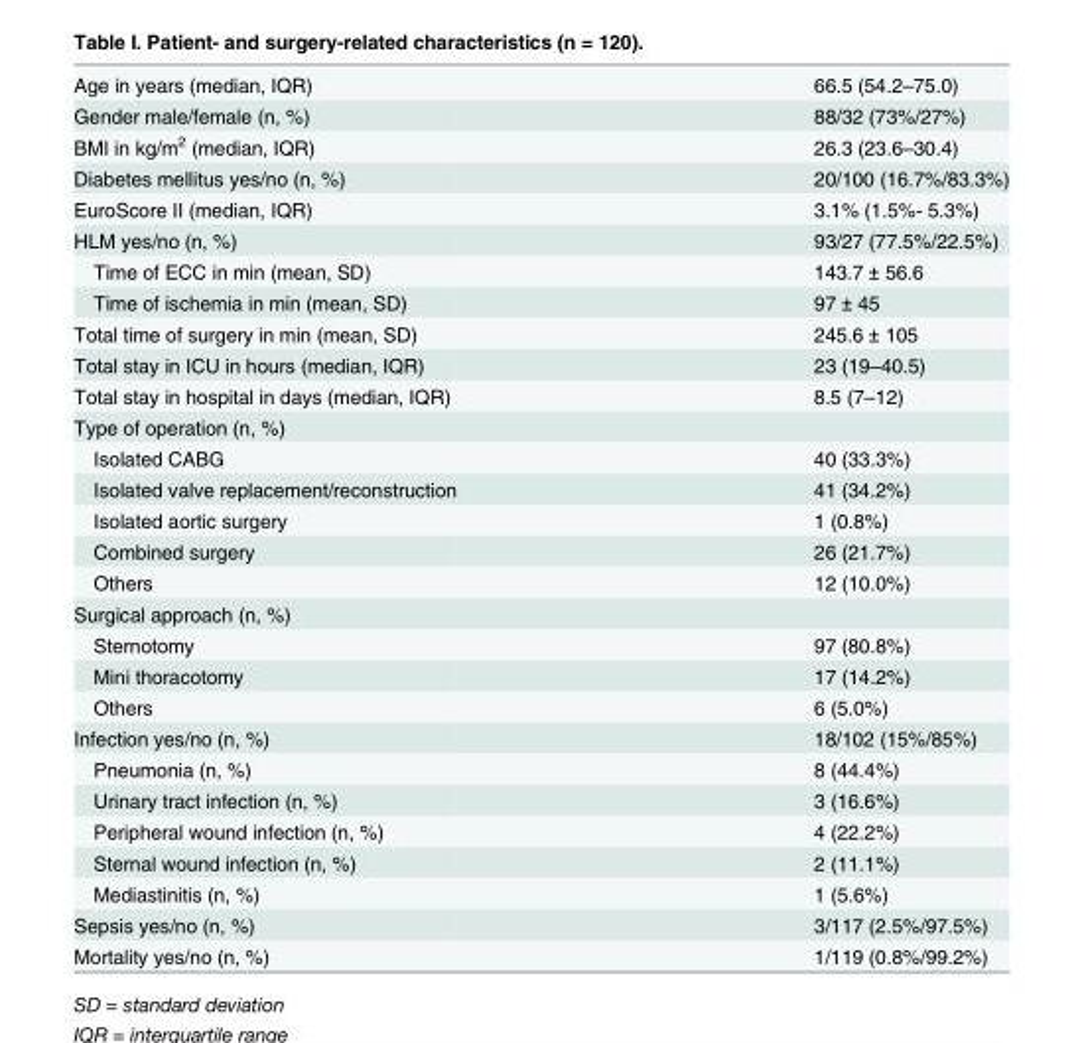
<table><tbody><tr><td>Age in years (median, IQR)</td><td>66.5 (54.2–75.0)</td></tr><tr><td>Gender male/female (n, %)</td><td>88/32 (73%/27%)</td></tr><tr><td>BMI in kg/m<sup>2</sup> (median, IQR)</td><td>26.3 (23.6–30.4)</td></tr><tr><td>Diabetes mellitus yes/no (n, %)</td><td>20/100 (16.7%/83.3%)</td></tr><tr><td>EuroScore II (median, IQR)</td><td>3.1% (1.5%- 5.3%)</td></tr><tr><td>HLM yes/no (n, %)</td><td>93/27 (77.5%/22.5%)</td></tr><tr><td>Time of ECC in min (mean, SD)</td><td>143.7 ± 56.6</td></tr><tr><td>Time of ischemia in min (mean, SD)</td><td>97 ± 45</td></tr><tr><td>Total time of surgery in min (mean, SD)</td><td>245.6 ± 105</td></tr><tr><td>Total stay in ICU in hours (median, IQR)</td><td>23 (19–40.5)</td></tr><tr><td>Total stay in hospital in days (median, IQR)</td><td>8.5 (7–12)</td></tr><tr><td colspan="2">Type of operation (n, %)</td></tr><tr><td>Isolated CABG</td><td>40 (33.3%)</td></tr><tr><td>Isolated valve replacement/reconstruction</td><td>41 (34.2%)</td></tr><tr><td>Isolated aortic surgery</td><td>1 (0.8%)</td></tr><tr><td>Combined surgery</td><td>26 (21.7%)</td></tr><tr><td>Others</td><td>12 (10.0%)</td></tr><tr><td colspan="2">Surgical approach (n, %)</td></tr><tr><td>Sternotomy</td><td>97 (80.8%)</td></tr><tr><td>Mini thoracotomy</td><td>17 (14.2%)</td></tr><tr><td>Others</td><td>6 (5.0%)</td></tr><tr><td>Infection yes/no (n, %)</td><td>18/102 (15%/85%)</td></tr><tr><td>Pneumonia (n, %)</td><td>8 (44.4%)</td></tr><tr><td>Urinary tract infection (n, %)</td><td>3 (16.6%)</td></tr><tr><td>Peripheral wound infection (n, %)</td><td>4 (22.2%)</td></tr><tr><td>Sternal wound infection (n, %)</td><td>2 (11.1%)</td></tr><tr><td>Mediastinitis (n, %)</td><td>1 (5.6%)</td></tr><tr><td>Sepsis yes/no (n, %)</td><td>3/117 (2.5%/97.5%)</td></tr><tr><td>Mortality yes/no (n, %)</td><td>1/119 (0.8%/99.2%)</td></tr></tbody></table>